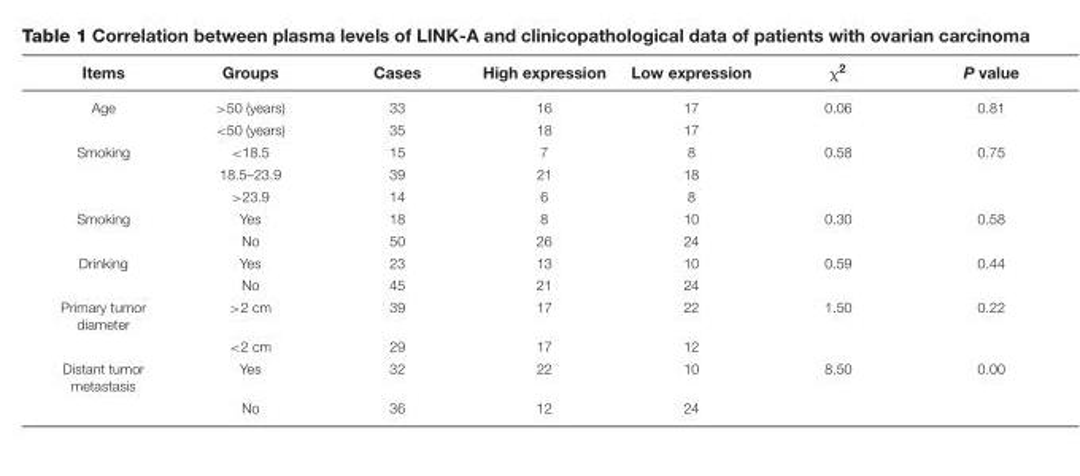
<table><thead><tr><td>Items</td><td>Groups</td><td>Cases</td><td>High expression</td><td>Low expression</td><td>χ<sup>2</sup></td><td>P value</td></tr></thead><tbody><tr><td rowspan="2">Age</td><td>&gt;50 (years)</td><td>33</td><td>16</td><td>17</td><td>0.06</td><td>0.81</td></tr><tr><td>&lt;50 (years)</td><td>35</td><td>18</td><td>17</td><td></td><td></td></tr><tr><td rowspan="3">Smoking</td><td>&lt;18.5</td><td>15</td><td>7</td><td>8</td><td>0.58</td><td>0.75</td></tr><tr><td>18.5–23.9</td><td>39</td><td>21</td><td>18</td><td></td><td></td></tr><tr><td>&gt;23.9</td><td>14</td><td>6</td><td>8</td><td></td><td></td></tr><tr><td rowspan="2">Smoking</td><td>Yes</td><td>18</td><td>8</td><td>10</td><td>0.30</td><td>0.58</td></tr><tr><td>No</td><td>50</td><td>26</td><td>24</td><td></td><td></td></tr><tr><td rowspan="2">Drinking</td><td>Yes</td><td>23</td><td>13</td><td>10</td><td>0.59</td><td>0.44</td></tr><tr><td>No</td><td>45</td><td>21</td><td>24</td><td></td><td></td></tr><tr><td rowspan="2">Primary tumor diameter</td><td>&gt;2 cm</td><td>39</td><td>17</td><td>22</td><td>1.50</td><td>0.22</td></tr><tr><td>&lt;2 cm</td><td>29</td><td>17</td><td>12</td><td></td><td></td></tr><tr><td rowspan="2">Distant tumor metastasis</td><td>Yes</td><td>32</td><td>22</td><td>10</td><td>8.50</td><td>0.00</td></tr><tr><td>No</td><td>36</td><td>12</td><td>24</td><td></td><td></td></tr></tbody></table>